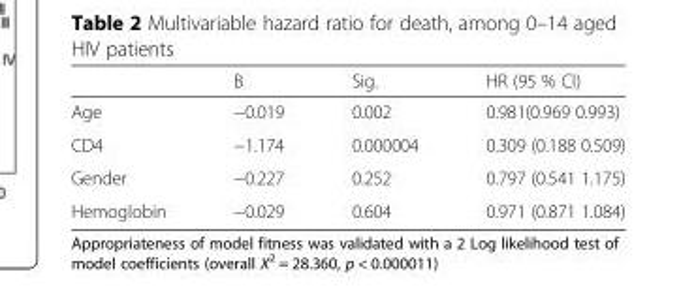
<table><thead><tr><td></td><td>B</td><td>Sig.</td><td>HR (95 % CI)</td></tr></thead><tbody><tr><td>Age</td><td>−0.019</td><td>0.002</td><td>0.981(0.969 0.993)</td></tr><tr><td>CD4</td><td>−1.174</td><td>0.000004</td><td>0.309 (0.188 0.509)</td></tr><tr><td>Gender</td><td>−0.227</td><td>0.252</td><td>0.797 (0.541 1.175)</td></tr><tr><td>Hemoglobin</td><td>−0.029</td><td>0.604</td><td>0.971 (0.871 1.084)</td></tr></tbody></table>